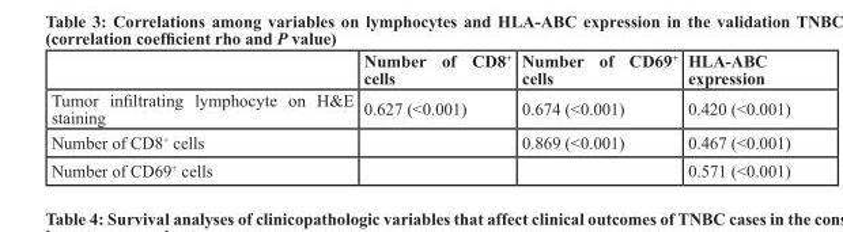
<table><thead><tr><td></td><td>Number of CD8<sup>+</sup> cells</td><td>Number of CD69<sup>+</sup> cells</td><td>HLA-ABC expression</td></tr></thead><tbody><tr><td>Tumor infiltrating lymphocyte on H&amp;E staining</td><td>0.627 (&lt;0.001)</td><td>0.674 (&lt;0.001)</td><td>0.420 (&lt;0.001)</td></tr><tr><td>Number of CD8<sup>+</sup> cells</td><td></td><td>0.869 (&lt;0.001)</td><td>0.467 (&lt;0.001)</td></tr><tr><td>Number of CD69<sup>+</sup> cells</td><td></td><td></td><td>0.571 (&lt;0.001)</td></tr></tbody></table>